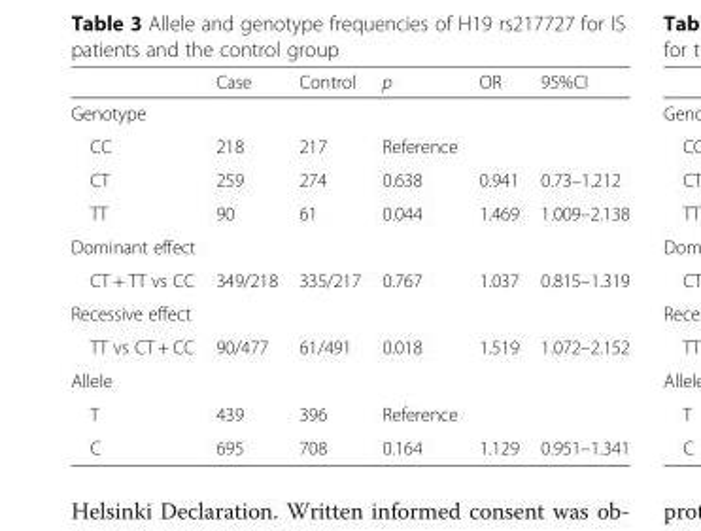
<table><thead><tr><td></td><td>Case</td><td>Control</td><td>p</td><td>OR</td><td>95%CI</td></tr></thead><tbody><tr><td colspan="6">Genotype</td></tr><tr><td>CC</td><td>218</td><td>217</td><td>Reference</td><td></td><td></td></tr><tr><td>CT</td><td>259</td><td>274</td><td>0.638</td><td>0.941</td><td>0.73–1.212</td></tr><tr><td>TT</td><td>90</td><td>61</td><td>0.044</td><td>1.469</td><td>1.009–2.138</td></tr><tr><td colspan="6">Dominant effect</td></tr><tr><td>CT + TT vs CC</td><td>349/218</td><td>335/217</td><td>0.767</td><td>1.037</td><td>0.815–1.319</td></tr><tr><td colspan="6">Recessive effect</td></tr><tr><td>TT vs CT + CC</td><td>90/477</td><td>61/491</td><td>0.018</td><td>1.519</td><td>1.072–2.152</td></tr><tr><td colspan="6">Allele</td></tr><tr><td>T</td><td>439</td><td>396</td><td>Reference</td><td></td><td></td></tr><tr><td>C</td><td>695</td><td>708</td><td>0.164</td><td>1.129</td><td>0.951–1.341</td></tr></tbody></table>